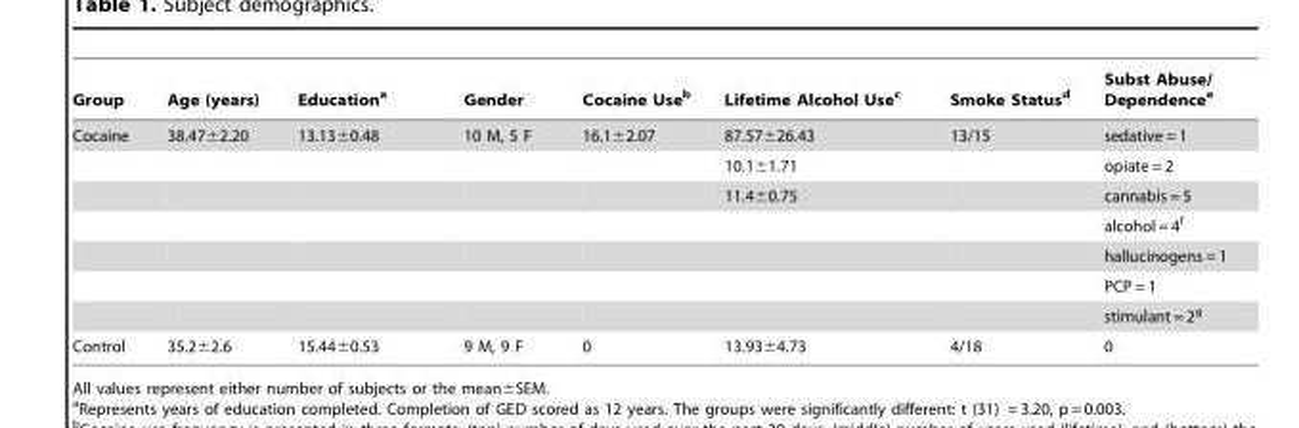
<table><thead><tr><td>Group</td><td>Age (years)</td><td>Education<sup>a</sup></td><td>Gender</td><td>Cocaine Use<sup>b</sup></td><td>Lifetime Alcohol Use<sup>c</sup></td><td>Smoke Status<sup>d</sup></td><td>Subst Abuse/ Dependence<sup>e</sup></td></tr></thead><tbody><tr><td rowspan="7">Cocaine</td><td>38.47±2.20</td><td>13.13±0.48</td><td>10 M, 5 F</td><td>16.1±2.07</td><td>87.57±26.43</td><td>13/15</td><td>sedative = 1</td></tr><tr><td></td><td></td><td></td><td></td><td>10.1±1.71</td><td></td><td>opiate = 2</td></tr><tr><td></td><td></td><td></td><td></td><td>11.4±0.75</td><td></td><td>cannabis = 5</td></tr><tr><td></td><td></td><td></td><td></td><td></td><td></td><td>alcohol = 4<sup>f</sup></td></tr><tr><td></td><td></td><td></td><td></td><td></td><td></td><td>hallucinogens = 1</td></tr><tr><td></td><td></td><td></td><td></td><td></td><td></td><td>PCP = 1</td></tr><tr><td></td><td></td><td></td><td></td><td></td><td></td><td>stimulant = 2<sup>g</sup></td></tr><tr><td>Control</td><td>35.2±2.6</td><td>15.44±0.53</td><td>9 M, 9 F</td><td>0</td><td>13.93±4.73</td><td>4/18</td><td>0</td></tr></tbody></table>